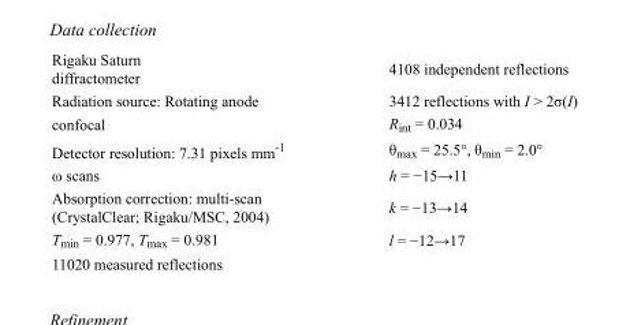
<table><tbody><tr><td>Rigaku Saturn diffractometer</td><td>4108 independent reflections</td></tr><tr><td>Radiation source: Rotating anode</td><td>3412 reflections with I &gt; 2σ(I)</td></tr><tr><td>confocal</td><td>R<sub>int</sub> = 0.034</td></tr><tr><td>Detector resolution: 7.31 pixels mm<sup>-1</sup></td><td>θ<sub>max</sub> = 25.5°, θ<sub>min</sub> = 2.0°</td></tr><tr><td>ω scans</td><td>h = −15→11</td></tr><tr><td>Absorption correction: multi-scan (CrystalClear; Rigaku/MSC, 2004)</td><td>k = −13→14</td></tr><tr><td>T<sub>min</sub> = 0.977, T<sub>max</sub> = 0.981</td><td>l = −12→17</td></tr><tr><td>11020 measured reflections</td><td></td></tr></tbody></table>